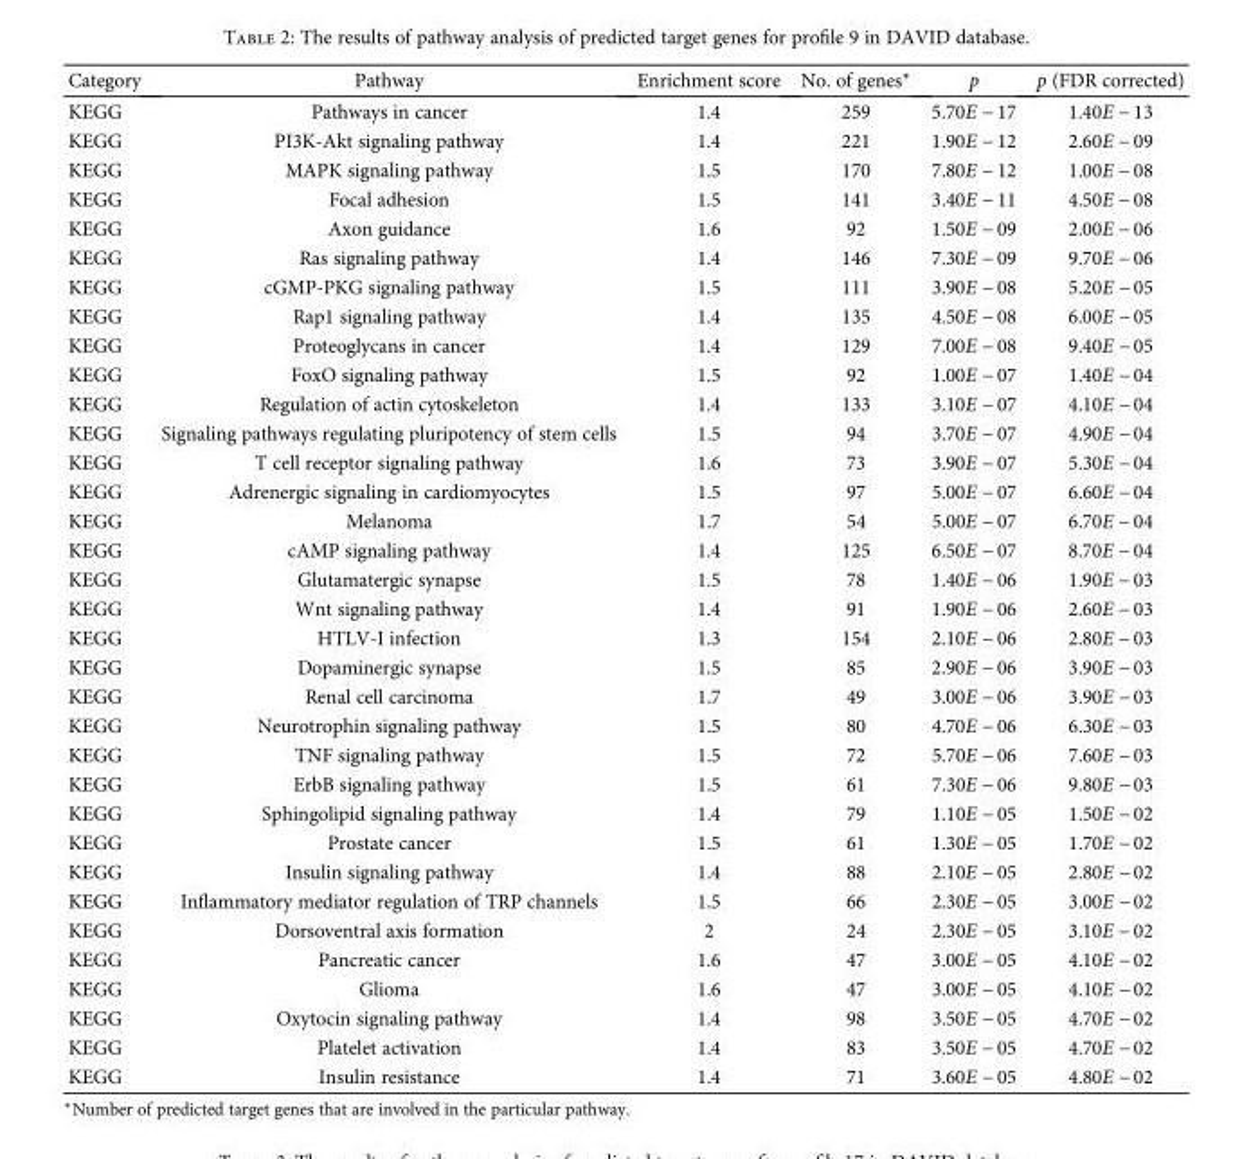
<table><thead><tr><td>Category</td><td>Pathway</td><td>Enrichment score</td><td>No. of genes∗</td><td>p</td><td>p (FDR corrected)</td></tr></thead><tbody><tr><td>KEGG</td><td>Pathways in cancer</td><td>1.4</td><td>259</td><td>5.70E − 17</td><td>1.40E − 13</td></tr><tr><td>KEGG</td><td>PI3K-Akt signaling pathway</td><td>1.4</td><td>221</td><td>1.90E − 12</td><td>2.60E − 09</td></tr><tr><td>KEGG</td><td>MAPK signaling pathway</td><td>1.5</td><td>170</td><td>7.80E − 12</td><td>1.00E − 08</td></tr><tr><td>KEGG</td><td>Focal adhesion</td><td>1.5</td><td>141</td><td>3.40E − 11</td><td>4.50E − 08</td></tr><tr><td>KEGG</td><td>Axon guidance</td><td>1.6</td><td>92</td><td>1.50E − 09</td><td>2.00E − 06</td></tr><tr><td>KEGG</td><td>Ras signaling pathway</td><td>1.4</td><td>146</td><td>7.30E − 09</td><td>9.70E − 06</td></tr><tr><td>KEGG</td><td>cGMP-PKG signaling pathway</td><td>1.5</td><td>111</td><td>3.90E − 08</td><td>5.20E − 05</td></tr><tr><td>KEGG</td><td>Rap1 signaling pathway</td><td>1.4</td><td>135</td><td>4.50E − 08</td><td>6.00E − 05</td></tr><tr><td>KEGG</td><td>Proteoglycans in cancer</td><td>1.4</td><td>129</td><td>7.00E − 08</td><td>9.40E − 05</td></tr><tr><td>KEGG</td><td>FoxO signaling pathway</td><td>1.5</td><td>92</td><td>1.00E − 07</td><td>1.40E − 04</td></tr><tr><td>KEGG</td><td>Regulation of actin cytoskeleton</td><td>1.4</td><td>133</td><td>3.10E − 07</td><td>4.10E − 04</td></tr><tr><td>KEGG</td><td>Signaling pathways regulating pluripotency of stem cells</td><td>1.5</td><td>94</td><td>3.70E − 07</td><td>4.90E − 04</td></tr><tr><td>KEGG</td><td>T cell receptor signaling pathway</td><td>1.6</td><td>73</td><td>3.90E − 07</td><td>5.30E − 04</td></tr><tr><td>KEGG</td><td>Adrenergic signaling in cardiomyocytes</td><td>1.5</td><td>97</td><td>5.00E − 07</td><td>6.60E − 04</td></tr><tr><td>KEGG</td><td>Melanoma</td><td>1.7</td><td>54</td><td>5.00E − 07</td><td>6.70E − 04</td></tr><tr><td>KEGG</td><td>cAMP signaling pathway</td><td>1.4</td><td>125</td><td>6.50E − 07</td><td>8.70E − 04</td></tr><tr><td>KEGG</td><td>Glutamatergic synapse</td><td>1.5</td><td>78</td><td>1.40E − 06</td><td>1.90E − 03</td></tr><tr><td>KEGG</td><td>Wnt signaling pathway</td><td>1.4</td><td>91</td><td>1.90E − 06</td><td>2.60E − 03</td></tr><tr><td>KEGG</td><td>HTLV-I infection</td><td>1.3</td><td>154</td><td>2.10E − 06</td><td>2.80E − 03</td></tr><tr><td>KEGG</td><td>Dopaminergic synapse</td><td>1.5</td><td>85</td><td>2.90E − 06</td><td>3.90E − 03</td></tr><tr><td>KEGG</td><td>Renal cell carcinoma</td><td>1.7</td><td>49</td><td>3.00E − 06</td><td>3.90E − 03</td></tr><tr><td>KEGG</td><td>Neurotrophin signaling pathway</td><td>1.5</td><td>80</td><td>4.70E − 06</td><td>6.30E − 03</td></tr><tr><td>KEGG</td><td>TNF signaling pathway</td><td>1.5</td><td>72</td><td>5.70E − 06</td><td>7.60E − 03</td></tr><tr><td>KEGG</td><td>ErbB signaling pathway</td><td>1.5</td><td>61</td><td>7.30E − 06</td><td>9.80E − 03</td></tr><tr><td>KEGG</td><td>Sphingolipid signaling pathway</td><td>1.4</td><td>79</td><td>1.10E − 05</td><td>1.50E − 02</td></tr><tr><td>KEGG</td><td>Prostate cancer</td><td>1.5</td><td>61</td><td>1.30E − 05</td><td>1.70E − 02</td></tr><tr><td>KEGG</td><td>Insulin signaling pathway</td><td>1.4</td><td>88</td><td>2.10E − 05</td><td>2.80E − 02</td></tr><tr><td>KEGG</td><td>Inflammatory mediator regulation of TRP channels</td><td>1.5</td><td>66</td><td>2.30E − 05</td><td>3.00E − 02</td></tr><tr><td>KEGG</td><td>Dorsoventral axis formation</td><td>2</td><td>24</td><td>2.30E − 05</td><td>3.10E − 02</td></tr><tr><td>KEGG</td><td>Pancreatic cancer</td><td>1.6</td><td>47</td><td>3.00E − 05</td><td>4.10E − 02</td></tr><tr><td>KEGG</td><td>Glioma</td><td>1.6</td><td>47</td><td>3.00E − 05</td><td>4.10E − 02</td></tr><tr><td>KEGG</td><td>Oxytocin signaling pathway</td><td>1.4</td><td>98</td><td>3.50E − 05</td><td>4.70E − 02</td></tr><tr><td>KEGG</td><td>Platelet activation</td><td>1.4</td><td>83</td><td>3.50E − 05</td><td>4.70E − 02</td></tr><tr><td>KEGG</td><td>Insulin resistance</td><td>1.4</td><td>71</td><td>3.60E − 05</td><td>4.80E − 02</td></tr></tbody></table>